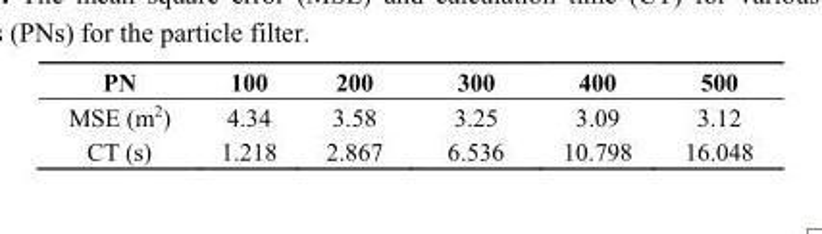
<table><thead><tr><td>PN</td><td>100</td><td>200</td><td>300</td><td>400</td><td>500</td></tr></thead><tbody><tr><td>MSE (m<sup>2</sup>)</td><td>4.34</td><td>3.58</td><td>3.25</td><td>3.09</td><td>3.12</td></tr><tr><td>CT (s)</td><td>1.218</td><td>2.867</td><td>6.536</td><td>10.798</td><td>16.048</td></tr></tbody></table>